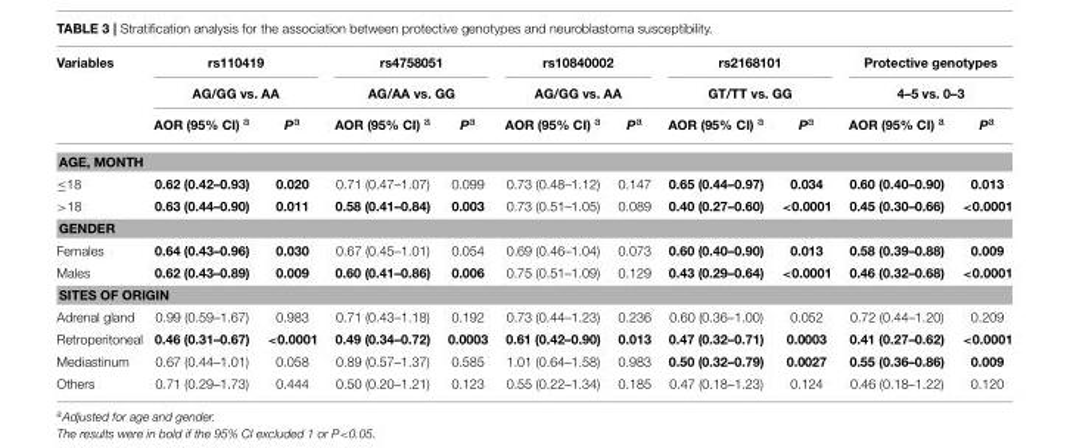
<table><thead><tr><td rowspan="3">Variables</td><td rowspan="2" colspan="2">rs110419 AG/GG vs. AA</td><td rowspan="2" colspan="2">rs4758051 AG/AA vs. GG</td><td rowspan="2" colspan="2">rs10840002 AG/GG vs. AA</td><td rowspan="2" colspan="2">rs2168101 GT/TT vs. GG</td><td rowspan="2" colspan="2">Protective genotypes 4–5 vs. 0–3</td></tr><tr></tr><tr><td>AOR (95% CI) <sup>a</sup></td><td>P<sup>a</sup></td><td>AOR (95% CI) <sup>a</sup></td><td>P<sup>a</sup></td><td>AOR (95% CI) <sup>a</sup></td><td>P<sup>a</sup></td><td>AOR (95% CI) <sup>a</sup></td><td>P<sup>a</sup></td><td>AOR (95% CI) <sup>a</sup></td><td>P<sup>a</sup></td></tr></thead><tbody><tr><td colspan="11">AGE, MONTH</td></tr><tr><td>≤18</td><td>0.62 (0.42–0.93)</td><td>0.020</td><td>0.71 (0.47–1.07)</td><td>0.099</td><td>0.73 (0.48–1.12)</td><td>0.147</td><td>0.65 (0.44–0.97)</td><td>0.034</td><td>0.60 (0.40–0.90)</td><td>0.013</td></tr><tr><td>&gt;18</td><td>0.63 (0.44–0.90)</td><td>0.011</td><td>0.58 (0.41–0.84)</td><td>0.003</td><td>0.73 (0.51–1.05)</td><td>0.089</td><td>0.40 (0.27–0.60)</td><td>&lt;0.0001</td><td>0.45 (0.30–0.66)</td><td>&lt;0.0001</td></tr><tr><td colspan="11">GENDER</td></tr><tr><td>Females</td><td>0.64 (0.43–0.96)</td><td>0.030</td><td>0.67 (0.45–1.01)</td><td>0.054</td><td>0.69 (0.46–1.04)</td><td>0.073</td><td>0.60 (0.40–0.90)</td><td>0.013</td><td>0.58 (0.39–0.88)</td><td>0.009</td></tr><tr><td>Males</td><td>0.62 (0.43–0.89)</td><td>0.009</td><td>0.60 (0.41–0.86)</td><td>0.006</td><td>0.75 (0.51–1.09)</td><td>0.129</td><td>0.43 (0.29–0.64)</td><td>&lt;0.0001</td><td>0.46 (0.32–0.68)</td><td>&lt;0.0001</td></tr><tr><td colspan="11">SITES OF ORIGIN</td></tr><tr><td>Adrenal gland</td><td>0.99 (0.59–1.67)</td><td>0.983</td><td>0.71 (0.43–1.18)</td><td>0.192</td><td>0.73 (0.44–1.23)</td><td>0.236</td><td>0.60 (0.36–1.00)</td><td>0.052</td><td>0.72 (0.44–1.20)</td><td>0.209</td></tr><tr><td>Retroperitoneal</td><td>0.46 (0.31–0.67)</td><td>&lt;0.0001</td><td>0.49 (0.34–0.72)</td><td>0.0003</td><td>0.61 (0.42–0.90)</td><td>0.013</td><td>0.47 (0.32–0.71)</td><td>0.0003</td><td>0.41 (0.27–0.62)</td><td>&lt;0.0001</td></tr><tr><td>Mediastinum</td><td>0.67 (0.44–1.01)</td><td>0.058</td><td>0.89 (0.57–1.37)</td><td>0.585</td><td>1.01 (0.64–1.58)</td><td>0.983</td><td>0.50 (0.32–0.79)</td><td>0.0027</td><td>0.55 (0.36–0.86)</td><td>0.009</td></tr><tr><td>Others</td><td>0.71 (0.29–1.73)</td><td>0.444</td><td>0.50 (0.20–1.21)</td><td>0.123</td><td>0.55 (0.22–1.34)</td><td>0.185</td><td>0.47 (0.18–1.23)</td><td>0.124</td><td>0.46 (0.18–1.22)</td><td>0.120</td></tr></tbody></table>